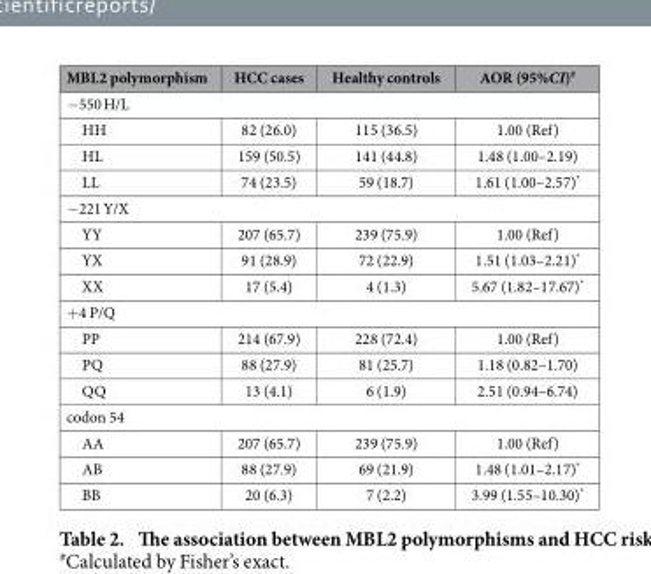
<table><thead><tr><td>MBL2 polymorphism</td><td>HCC cases</td><td>Healthy controls</td><td>AOR (95%CI)<sup>#</sup></td></tr></thead><tbody><tr><td colspan="4">− 550 H/L</td></tr><tr><td>HH</td><td>82 (26.0)</td><td>115 (36.5)</td><td>1.00 (Ref)</td></tr><tr><td>HL</td><td>159 (50.5)</td><td>141 (44.8)</td><td>1.48 (1.00–2.19)</td></tr><tr><td>LL</td><td>74 (23.5)</td><td>59 (18.7)</td><td>1.61 (1.00–2.57)*</td></tr><tr><td colspan="4">− 221 Y/X</td></tr><tr><td>YY</td><td>207 (65.7)</td><td>239 (75.9)</td><td>1.00 (Ref)</td></tr><tr><td>YX</td><td>91 (28.9)</td><td>72 (22.9)</td><td>1.51 (1.03–2.21)*</td></tr><tr><td>XX</td><td>17 (5.4)</td><td>4 (1.3)</td><td>5.67 (1.82–17.67)*</td></tr><tr><td colspan="4">+ 4 P/Q</td></tr><tr><td>PP</td><td>214 (67.9)</td><td>228 (72.4)</td><td>1.00 (Ref)</td></tr><tr><td>PQ</td><td>88 (27.9)</td><td>81 (25.7)</td><td>1.18 (0.82–1.70)</td></tr><tr><td>QQ</td><td>13 (4.1)</td><td>6 (1.9)</td><td>2.51 (0.94–6.74)</td></tr><tr><td colspan="4">codon 54</td></tr><tr><td>AA</td><td>207 (65.7)</td><td>239 (75.9)</td><td>1.00 (Ref)</td></tr><tr><td>AB</td><td>88 (27.9)</td><td>69 (21.9)</td><td>1.48 (1.01–2.17)*</td></tr><tr><td>BB</td><td>20 (6.3)</td><td>7 (2.2)</td><td>3.99 (1.55–10.30)*</td></tr></tbody></table>